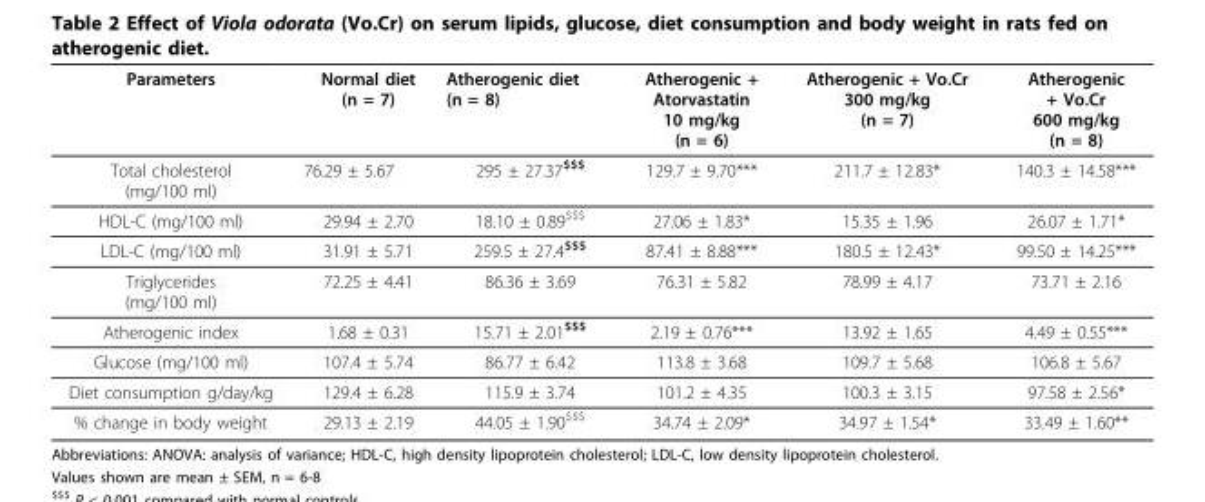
<table><thead><tr><td>Parameters</td><td>Normal diet (n = 7)</td><td>Atherogenic diet (n = 8)</td><td>Atherogenic + Atorvastatin 10 mg/kg (n = 6)</td><td>Atherogenic + Vo.Cr 300 mg/kg (n = 7)</td><td>Atherogenic + Vo.Cr 600 mg/kg (n = 8)</td></tr></thead><tbody><tr><td>Total cholesterol (mg/100 ml)</td><td>76.29 ± 5.67</td><td>295 ± 27.37<sup>$$$</sup></td><td>129.7 ± 9.70***</td><td>211.7 ± 12.83*</td><td>140.3 ± 14.58***</td></tr><tr><td>HDL-C (mg/100 ml)</td><td>29.94 ± 2.70</td><td>18.10 ± 0.89<sup>$$$</sup></td><td>27.06 ± 1.83*</td><td>15.35 ± 1.96</td><td>26.07 ± 1.71*</td></tr><tr><td>LDL-C (mg/100 ml)</td><td>31.91 ± 5.71</td><td>259.5 ± 27.4<sup>$$$</sup></td><td>87.41 ± 8.88***</td><td>180.5 ± 12.43*</td><td>99.50 ± 14.25***</td></tr><tr><td>Triglycerides (mg/100 ml)</td><td>72.25 ± 4.41</td><td>86.36 ± 3.69</td><td>76.31 ± 5.82</td><td>78.99 ± 4.17</td><td>73.71 ± 2.16</td></tr><tr><td>Atherogenic index</td><td>1.68 ± 0.31</td><td>15.71 ± 2.01<sup>$$$</sup></td><td>2.19 ± 0.76***</td><td>13.92 ± 1.65</td><td>4.49 ± 0.55***</td></tr><tr><td>Glucose (mg/100 ml)</td><td>107.4 ± 5.74</td><td>86.77 ± 6.42</td><td>113.8 ± 3.68</td><td>109.7 ± 5.68</td><td>106.8 ± 5.67</td></tr><tr><td>Diet consumption g/day/kg</td><td>129.4 ± 6.28</td><td>115.9 ± 3.74</td><td>101.2 ± 4.35</td><td>100.3 ± 3.15</td><td>97.58 ± 2.56*</td></tr><tr><td>% change in body weight</td><td>29.13 ± 2.19</td><td>44.05 ± 1.90<sup>$$$</sup></td><td>34.74 ± 2.09*</td><td>34.97 ± 1.54*</td><td>33.49 ± 1.60**</td></tr></tbody></table>